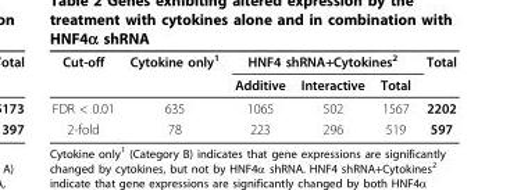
<table><thead><tr><td rowspan="2">Cut-off</td><td rowspan="2">Cytokine only<sup>1</sup></td><td colspan="3">HNF4 shRNA+Cytokines<sup>2</sup></td><td rowspan="2">Total</td></tr><tr><td>Additive</td><td>Interactive</td><td>Total</td></tr></thead><tbody><tr><td>FDR &lt; 0.01</td><td>635</td><td>1065</td><td>502</td><td>1567</td><td>2202</td></tr><tr><td>2-fold</td><td>78</td><td>223</td><td>296</td><td>519</td><td>597</td></tr></tbody></table>